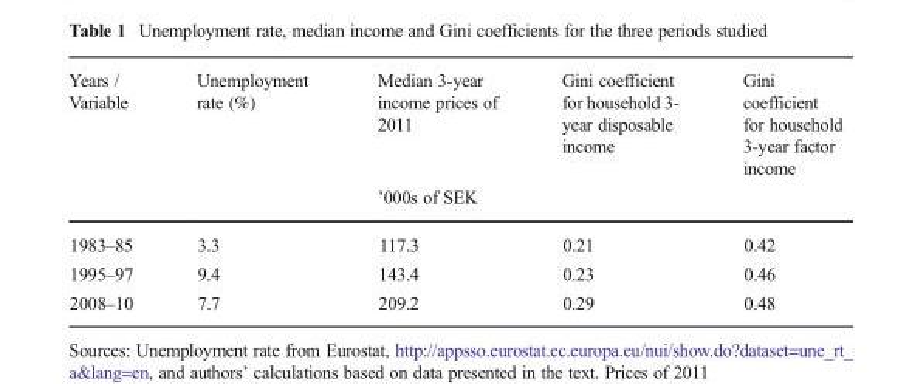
<table><thead><tr><td rowspan="2">Years / Variable</td><td rowspan="2">Unemployment rate (%)</td><td>Median 3-year income prices of 2011</td><td>Gini coefficient for household 3- year disposable income</td><td>Gini coefficient for household 3-year factor income</td></tr><tr><td colspan="3">’000s of SEK</td></tr></thead><tbody><tr><td>1983–85</td><td>3.3</td><td>117.3</td><td>0.21</td><td>0.42</td></tr><tr><td>1995–97</td><td>9.4</td><td>143.4</td><td>0.23</td><td>0.46</td></tr><tr><td>2008–10</td><td>7.7</td><td>209.2</td><td>0.29</td><td>0.48</td></tr></tbody></table>